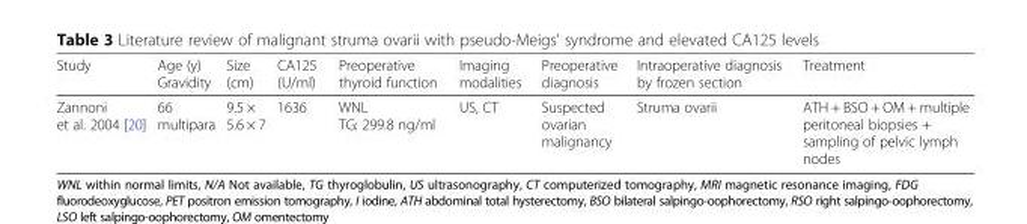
<table><thead><tr><td>Study</td><td>Age (y) Gravidity</td><td>Size (cm)</td><td>CA125 (U/ml)</td><td>Preoperative thyroid function</td><td>Imaging modalities</td><td>Preoperative diagnosis</td><td>Intraoperative diagnosis by frozen section</td><td>Treatment</td></tr></thead><tbody><tr><td>Zannoni et al. 2004 [20]</td><td>66 multipara</td><td>9.5 × 5.6 × 7</td><td>1636</td><td>WNL TG: 299.8 ng/ml</td><td>US, CT</td><td>Suspected ovarian malignancy</td><td>Struma ovarii</td><td>ATH + BSO + OM + multiple peritoneal biopsies + sampling of pelvic lymph nodes</td></tr></tbody></table>